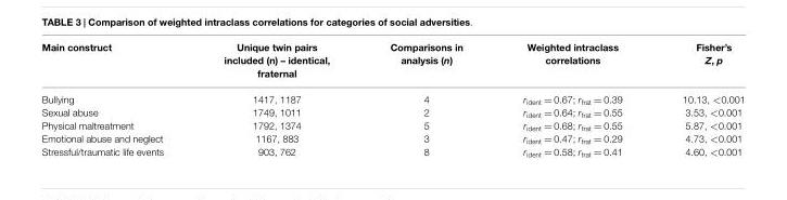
<table><thead><tr><td>Main construct</td><td>Unique twin pairs included (n) – identical, fraternal</td><td>Comparisons in analysis (n)</td><td>Weighted intraclass correlations</td><td>Fisher’s Z, p</td></tr></thead><tbody><tr><td>Bullying</td><td>1417, 1187</td><td>4</td><td>r<sub>ident</sub> = 0.67; r<sub>frat</sub> = 0.39</td><td>10.13, &lt;0.001</td></tr><tr><td>Sexual abuse</td><td>1749, 1011</td><td>2</td><td>r<sub>ident</sub> = 0.64; r<sub>frat</sub> = 0.55</td><td>3.53, &lt;0.001</td></tr><tr><td>Physical maltreatment</td><td>1792, 1374</td><td>5</td><td>r<sub>ident</sub> = 0.68; r<sub>frat</sub> = 0.55</td><td>5.87, &lt;0.001</td></tr><tr><td>Emotional abuse and neglect</td><td>1167, 883</td><td>3</td><td>r<sub>ident</sub> = 0.47; r<sub>frat</sub> = 0.29</td><td>4.73, &lt;0.001</td></tr><tr><td>Stressful/traumatic life events</td><td>903, 762</td><td>8</td><td>r<sub>ident</sub> = 0.58; r<sub>frat</sub> = 0.41</td><td>4.60, &lt;0.001</td></tr></tbody></table>